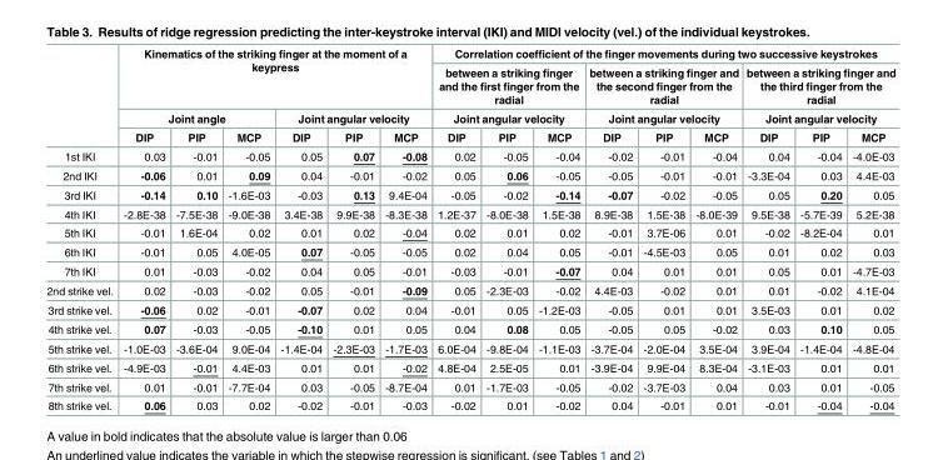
<table><thead><tr><td rowspan="4"></td><td rowspan="2" colspan="6">Kinematics of the striking finger at the moment of a keypress</td><td colspan="9">Correlation coefficient of the finger movements during two successive keystrokes</td></tr><tr><td rowspan="2" colspan="3">between a striking finger and the first finger from the radial Joint angular velocity</td><td rowspan="2" colspan="3">between a striking finger and the second finger from the radial Joint angular velocity</td><td rowspan="2" colspan="3">between a striking finger and the third finger from the radial Joint angular velocity</td></tr><tr><td colspan="3">Joint angle</td><td colspan="3">Joint angular velocity</td></tr><tr><td>DIP</td><td>PIP</td><td>MCP</td><td>DIP</td><td>PIP</td><td>MCP</td><td>DIP</td><td>PIP</td><td>MCP</td><td>DIP</td><td>PIP</td><td>MCP</td><td>DIP</td><td>PIP</td><td>MCP</td></tr></thead><tbody><tr><td>1st IKI</td><td>0.03</td><td>-0.01</td><td>-0.05</td><td>0.05</td><td>0.07</td><td>-0.08</td><td>0.02</td><td>-0.05</td><td>-0.04</td><td>-0.02</td><td>-0.01</td><td>-0.04</td><td>0.04</td><td>-0.04</td><td>-4.0E-03</td></tr><tr><td>2nd IKI</td><td>-0.06</td><td>0.01</td><td>0.09</td><td>0.04</td><td>-0.01</td><td>-0.02</td><td>0.05</td><td>0.06</td><td>-0.05</td><td>-0.05</td><td>-0.01</td><td>-0.01</td><td>-3.3E-04</td><td>0.03</td><td>4.4E-03</td></tr><tr><td>3rd IKI</td><td>-0.14</td><td>0.10</td><td>-1.6E-03</td><td>-0.03</td><td>0.13</td><td>9.4E-04</td><td>-0.05</td><td>-0.02</td><td>-0.14</td><td>-0.07</td><td>-0.02</td><td>-0.05</td><td>0.05</td><td>0.20</td><td>0.05</td></tr><tr><td>4th IKI</td><td>-2.8E-38</td><td>-7.5E-38</td><td>-9.0E-38</td><td>3.4E-38</td><td>9.9E-38</td><td>-8.3E-38</td><td>1.2E-37</td><td>-8.0E-38</td><td>1.5E-38</td><td>8.9E-38</td><td>1.5E-38</td><td>-8.0E-39</td><td>9.5E-38</td><td>-5.7E-39</td><td>5.2E-38</td></tr><tr><td>5th IKI</td><td>-0.01</td><td>1.6E-04</td><td>0.02</td><td>0.01</td><td>0.02</td><td>-0.04</td><td>0.02</td><td>0.01</td><td>0.02</td><td>-0.01</td><td>3.7E-06</td><td>0.01</td><td>-0.02</td><td>-8.2E-04</td><td>0.01</td></tr><tr><td>6th IKI</td><td>-0.01</td><td>0.05</td><td>4.0E-05</td><td>0.07</td><td>-0.05</td><td>-0.05</td><td>0.02</td><td>0.04</td><td>0.05</td><td>-0.01</td><td>-4.5E-03</td><td>0.05</td><td>0.01</td><td>0.02</td><td>0.03</td></tr><tr><td>7th IKI</td><td>0.01</td><td>-0.03</td><td>-0.02</td><td>0.04</td><td>0.05</td><td>-0.01</td><td>-0.03</td><td>-0.01</td><td>-0.07</td><td>0.04</td><td>0.01</td><td>0.01</td><td>0.05</td><td>0.01</td><td>-4.7E-03</td></tr><tr><td>2nd strike vel.</td><td>0.02</td><td>-0.03</td><td>-0.02</td><td>0.05</td><td>-0.01</td><td>-0.09</td><td>0.05</td><td>-2.3E-03</td><td>-0.02</td><td>4.4E-03</td><td>-0.02</td><td>0.01</td><td>0.01</td><td>-0.02</td><td>4.1E-04</td></tr><tr><td>3rd strike vel.</td><td>-0.06</td><td>0.02</td><td>-0.01</td><td>-0.07</td><td>0.02</td><td>0.04</td><td>-0.01</td><td>0.05</td><td>-1.2E-03</td><td>-0.05</td><td>0.01</td><td>0.01</td><td>3.5E-03</td><td>0.01</td><td>0.02</td></tr><tr><td>4th strike vel.</td><td>0.07</td><td>-0.03</td><td>-0.05</td><td>-0.10</td><td>0.01</td><td>0.05</td><td>0.04</td><td>0.08</td><td>0.05</td><td>-0.05</td><td>0.05</td><td>-0.02</td><td>0.03</td><td>0.10</td><td>0.05</td></tr><tr><td>5th strike vel.</td><td>-1.0E-03</td><td>-3.6E-04</td><td>9.0E-04</td><td>-1.4E-04</td><td>-2.3E-03</td><td>-1.7E-03</td><td>6.0E-04</td><td>-9.8E-04</td><td>-1.1E-03</td><td>-3.7E-04</td><td>-2.0E-04</td><td>3.5E-04</td><td>3.9E-04</td><td>-1.4E-04</td><td>-4.8E-04</td></tr><tr><td>6th strike vel.</td><td>-4.9E-03</td><td>-0.01</td><td>4.4E-03</td><td>0.01</td><td>0.01</td><td>-0.02</td><td>4.8E-04</td><td>2.5E-05</td><td>0.01</td><td>-3.9E-04</td><td>9.9E-04</td><td>8.3E-04</td><td>-3.1E-03</td><td>0.01</td><td>0.01</td></tr><tr><td>7th strike vel.</td><td>0.01</td><td>-0.01</td><td>-7.7E-04</td><td>0.03</td><td>-0.05</td><td>-8.7E-04</td><td>0.01</td><td>-1.7E-03</td><td>-0.05</td><td>-0.02</td><td>-3.7E-03</td><td>0.04</td><td>0.03</td><td>0.01</td><td>-0.05</td></tr><tr><td>8th strike vel.</td><td>0.06</td><td>0.03</td><td>0.02</td><td>-0.02</td><td>-0.01</td><td>-0.03</td><td>-0.02</td><td>0.01</td><td>-0.02</td><td>0.04</td><td>-0.01</td><td>0.01</td><td>-0.01</td><td>-0.04</td><td>-0.04</td></tr></tbody></table>